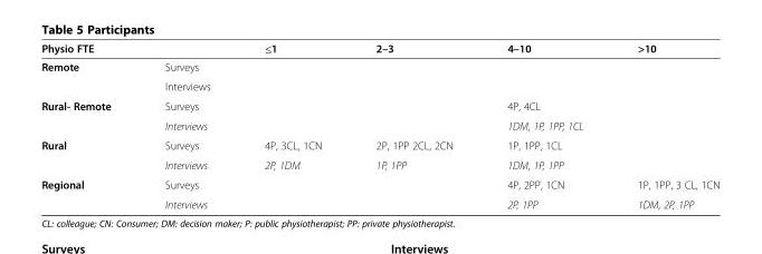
<table><thead><tr><td>Physio FTE</td><td></td><td>≤1</td><td>2–3</td><td>4–10</td><td>&gt;10</td></tr></thead><tbody><tr><td rowspan="2">Remote</td><td>Surveys</td><td></td><td></td><td></td><td></td></tr><tr><td>Interviews</td><td></td><td></td><td></td><td></td></tr><tr><td rowspan="2">Rural- Remote</td><td>Surveys</td><td></td><td></td><td>4P, 4CL</td><td></td></tr><tr><td>Interviews</td><td></td><td></td><td>1DM, 1P, 1PP, 1CL</td><td></td></tr><tr><td rowspan="2">Rural</td><td>Surveys</td><td>4P, 3CL, 1CN</td><td>2P, 1PP 2CL, 2CN</td><td>1P, 1PP, 1CL</td><td></td></tr><tr><td>Interviews</td><td>2P, 1DM</td><td>1P, 1PP</td><td>1DM, 1P, 1PP</td><td></td></tr><tr><td rowspan="2">Regional</td><td>Surveys</td><td></td><td></td><td>4P, 2PP, 1CN</td><td>1P, 1PP, 3 CL, 1CN</td></tr><tr><td>Interviews</td><td></td><td></td><td>2P, 1PP</td><td>1DM, 2P, 1PP</td></tr></tbody></table>